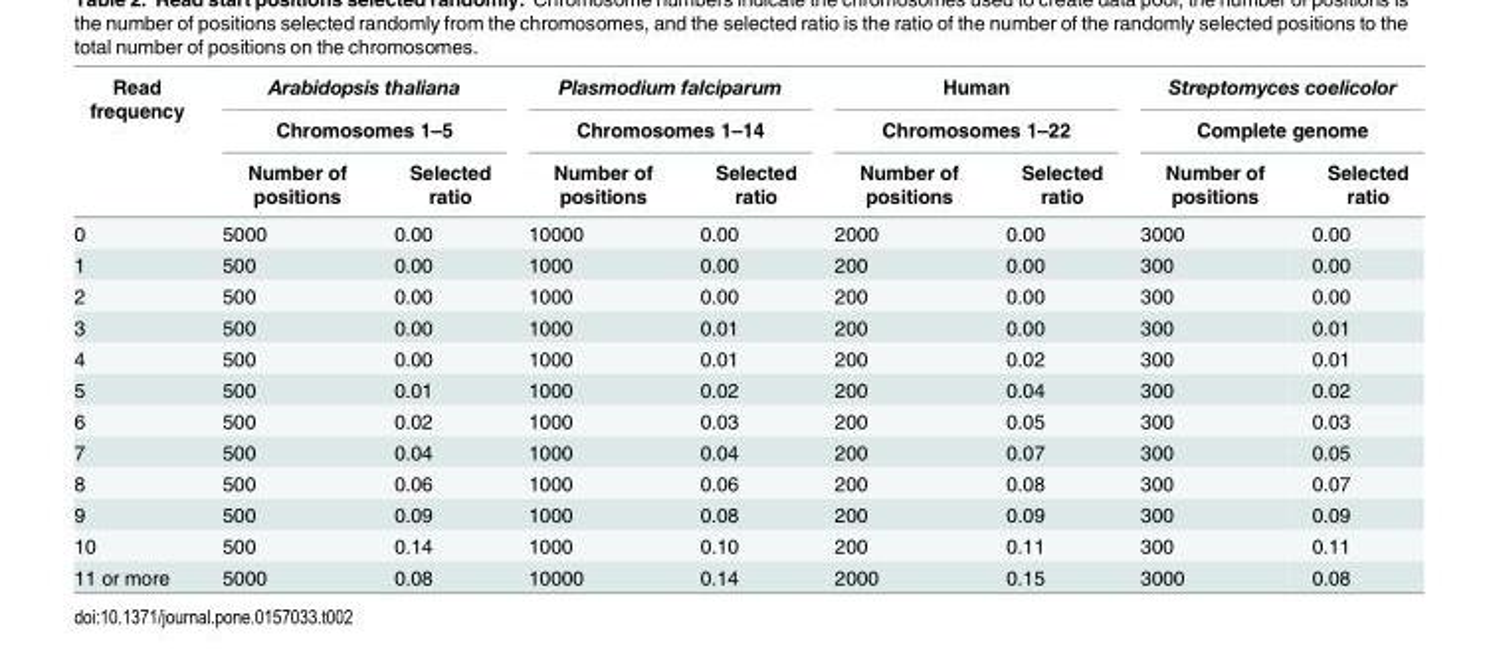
<table><thead><tr><td rowspan="3">Read frequency</td><td rowspan="2" colspan="2">Arabidopsis thaliana Chromosomes 1–5</td><td rowspan="2" colspan="2">Plasmodium falciparum Chromosomes 1–14</td><td rowspan="2" colspan="2">Human Chromosomes 1–22</td><td rowspan="2" colspan="2">Streptomyces coelicolor Complete genome</td></tr><tr></tr><tr><td>Number of positions</td><td>Selected ratio</td><td>Number of positions</td><td>Selected ratio</td><td>Number of positions</td><td>Selected ratio</td><td>Number of positions</td><td>Selected ratio</td></tr></thead><tbody><tr><td>0</td><td>5000</td><td>0.00</td><td>10000</td><td>0.00</td><td>2000</td><td>0.00</td><td>3000</td><td>0.00</td></tr><tr><td>1</td><td>500</td><td>0.00</td><td>1000</td><td>0.00</td><td>200</td><td>0.00</td><td>300</td><td>0.00</td></tr><tr><td>2</td><td>500</td><td>0.00</td><td>1000</td><td>0.00</td><td>200</td><td>0.00</td><td>300</td><td>0.00</td></tr><tr><td>3</td><td>500</td><td>0.00</td><td>1000</td><td>0.01</td><td>200</td><td>0.00</td><td>300</td><td>0.01</td></tr><tr><td>4</td><td>500</td><td>0.00</td><td>1000</td><td>0.01</td><td>200</td><td>0.02</td><td>300</td><td>0.01</td></tr><tr><td>5</td><td>500</td><td>0.01</td><td>1000</td><td>0.02</td><td>200</td><td>0.04</td><td>300</td><td>0.02</td></tr><tr><td>6</td><td>500</td><td>0.02</td><td>1000</td><td>0.03</td><td>200</td><td>0.05</td><td>300</td><td>0.03</td></tr><tr><td>7</td><td>500</td><td>0.04</td><td>1000</td><td>0.04</td><td>200</td><td>0.07</td><td>300</td><td>0.05</td></tr><tr><td>8</td><td>500</td><td>0.06</td><td>1000</td><td>0.06</td><td>200</td><td>0.08</td><td>300</td><td>0.07</td></tr><tr><td>9</td><td>500</td><td>0.09</td><td>1000</td><td>0.08</td><td>200</td><td>0.09</td><td>300</td><td>0.09</td></tr><tr><td>10</td><td>500</td><td>0.14</td><td>1000</td><td>0.10</td><td>200</td><td>0.11</td><td>300</td><td>0.11</td></tr><tr><td>11 or more</td><td>5000</td><td>0.08</td><td>10000</td><td>0.14</td><td>2000</td><td>0.15</td><td>3000</td><td>0.08</td></tr></tbody></table>